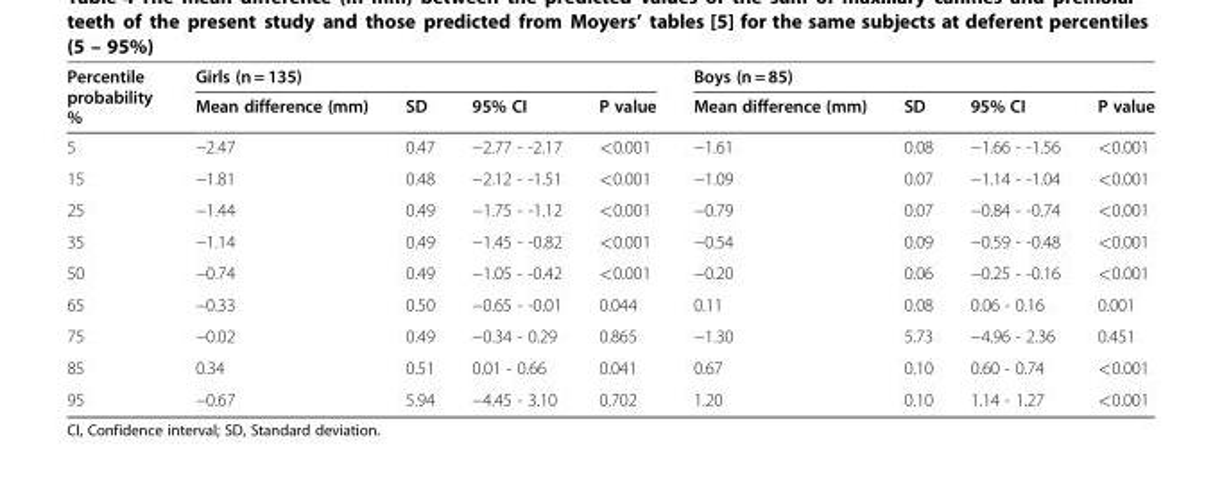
<table><thead><tr><td rowspan="2">Percentile probability %</td><td colspan="4">Girls (n = 135)</td><td colspan="4">Boys (n = 85)</td></tr><tr><td>Mean difference (mm)</td><td>SD</td><td>95% CI</td><td>P value</td><td>Mean difference (mm)</td><td>SD</td><td>95% CI</td><td>P value</td></tr></thead><tbody><tr><td>5</td><td>−2.47</td><td>0.47</td><td>−2.77 - -2.17</td><td>&lt;0.001</td><td>−1.61</td><td>0.08</td><td>−1.66 - -1.56</td><td>&lt;0.001</td></tr><tr><td>15</td><td>−1.81</td><td>0.48</td><td>−2.12 - -1.51</td><td>&lt;0.001</td><td>−1.09</td><td>0.07</td><td>−1.14 - -1.04</td><td>&lt;0.001</td></tr><tr><td>25</td><td>−1.44</td><td>0.49</td><td>−1.75 - -1.12</td><td>&lt;0.001</td><td>−0.79</td><td>0.07</td><td>−0.84 - -0.74</td><td>&lt;0.001</td></tr><tr><td>35</td><td>−1.14</td><td>0.49</td><td>−1.45 - -0.82</td><td>&lt;0.001</td><td>−0.54</td><td>0.09</td><td>−0.59 - -0.48</td><td>&lt;0.001</td></tr><tr><td>50</td><td>−0.74</td><td>0.49</td><td>−1.05 - -0.42</td><td>&lt;0.001</td><td>−0.20</td><td>0.06</td><td>−0.25 - -0.16</td><td>&lt;0.001</td></tr><tr><td>65</td><td>−0.33</td><td>0.50</td><td>−0.65 - -0.01</td><td>0.044</td><td>0.11</td><td>0.08</td><td>0.06 - 0.16</td><td>0.001</td></tr><tr><td>75</td><td>−0.02</td><td>0.49</td><td>−0.34 - 0.29</td><td>0.865</td><td>−1.30</td><td>5.73</td><td>−4.96 - 2.36</td><td>0.451</td></tr><tr><td>85</td><td>0.34</td><td>0.51</td><td>0.01 - 0.66</td><td>0.041</td><td>0.67</td><td>0.10</td><td>0.60 - 0.74</td><td>&lt;0.001</td></tr><tr><td>95</td><td>−0.67</td><td>5.94</td><td>−4.45 - 3.10</td><td>0.702</td><td>1.20</td><td>0.10</td><td>1.14 - 1.27</td><td>&lt;0.001</td></tr></tbody></table>